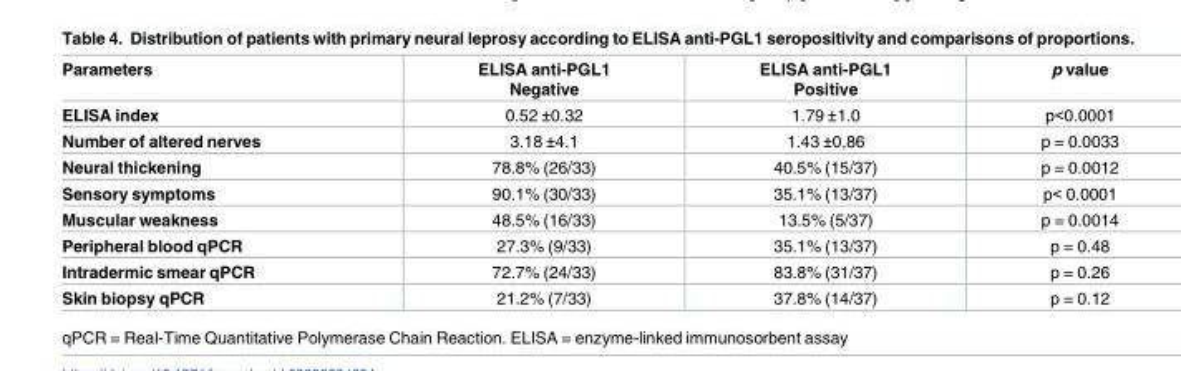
<table><thead><tr><td>Parameters</td><td>ELISA anti-PGL1 Negative</td><td>ELISA anti-PGL1 Positive</td><td>p value</td></tr></thead><tbody><tr><td>ELISA index</td><td>0.52 ±0.32</td><td>1.79 ±1.0</td><td>p&lt;0.0001</td></tr><tr><td>Number of altered nerves</td><td>3.18 ±4.1</td><td>1.43 ±0,86</td><td>p = 0.0033</td></tr><tr><td>Neural thickening</td><td>78.8% (26/33)</td><td>40.5% (15/37)</td><td>p = 0.0012</td></tr><tr><td>Sensory symptoms</td><td>90.1% (30/33)</td><td>35.1% (13/37)</td><td>p&lt; 0.0001</td></tr><tr><td>Muscular weakness</td><td>48.5% (16/33)</td><td>13.5% (5/37)</td><td>p = 0.0014</td></tr><tr><td>Peripheral blood qPCR</td><td>27.3% (9/33)</td><td>35.1% (13/37)</td><td>p = 0.48</td></tr><tr><td>Intradermic smear qPCR</td><td>72.7% (24/33)</td><td>83.8% (31/37)</td><td>p = 0.26</td></tr><tr><td>Skin biopsy qPCR</td><td>21.2% (7/33)</td><td>37.8% (14/37)</td><td>p = 0.12</td></tr></tbody></table>